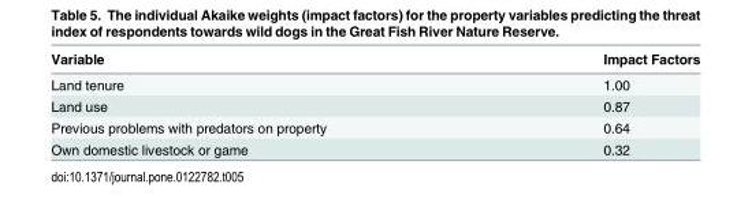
<table><thead><tr><td>Variable</td><td>Impact Factors</td></tr></thead><tbody><tr><td>Land tenure</td><td>1.00</td></tr><tr><td>Land use</td><td>0.87</td></tr><tr><td>Previous problems with predators on property</td><td>0.64</td></tr><tr><td>Own domestic livestock or game</td><td>0.32</td></tr></tbody></table>